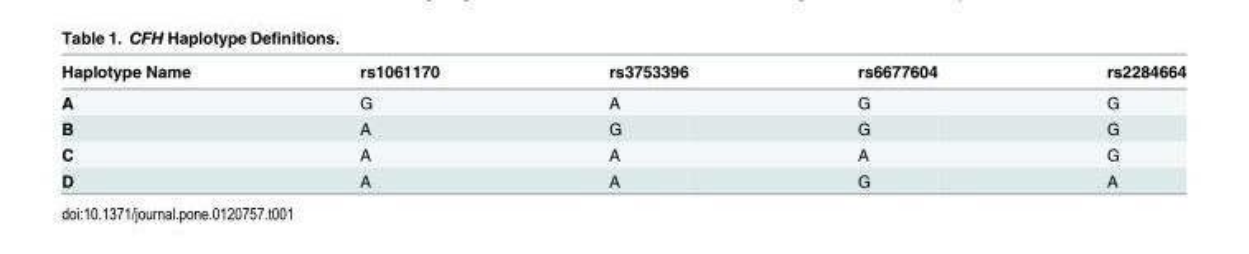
<table><thead><tr><td>Haplotype Name</td><td>rs1061170</td><td>rs3753396</td><td>rs6677604</td><td>rs2284664</td></tr></thead><tbody><tr><td>A</td><td>G</td><td>A</td><td>G</td><td>G</td></tr><tr><td>B</td><td>A</td><td>G</td><td>G</td><td>G</td></tr><tr><td>C</td><td>A</td><td>A</td><td>A</td><td>G</td></tr><tr><td>D</td><td>A</td><td>A</td><td>G</td><td>A</td></tr></tbody></table>